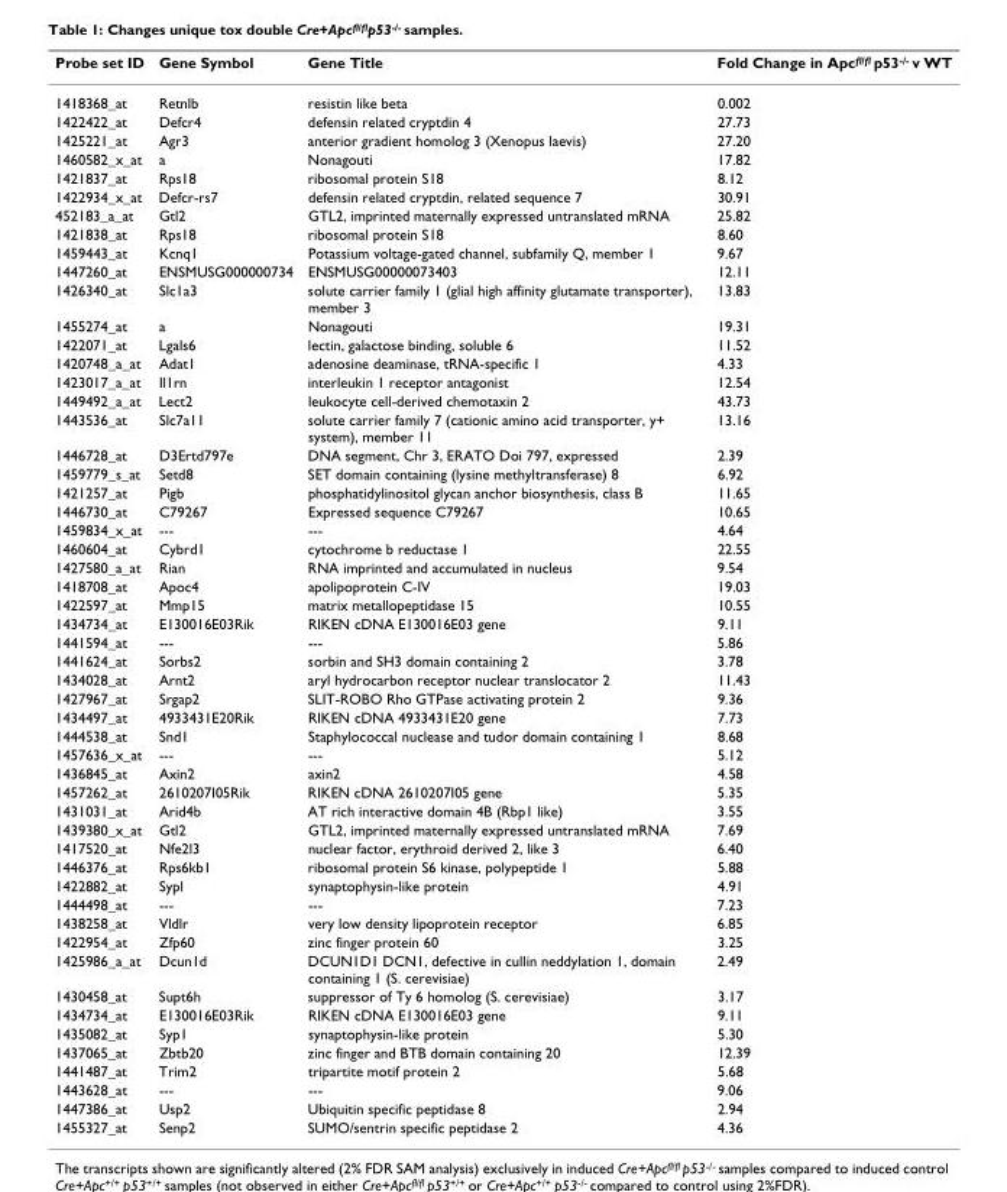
<table><thead><tr><td>Probe set ID</td><td>Gene Symbol</td><td>Gene Title</td><td>Fold Change in Apc<sup>fl/fl</sup> p53<sup>-/-</sup> v WT</td></tr></thead><tbody><tr><td>1418368_at</td><td>Retnlb</td><td>resistin like beta</td><td>0.002</td></tr><tr><td>1422422_at</td><td>Defcr4</td><td>defensin related cryptdin 4</td><td>27.73</td></tr><tr><td>1425221_at</td><td>Agr3</td><td>anterior gradient homolog 3 (Xenopus laevis)</td><td>27.20</td></tr><tr><td>1460582_x_at</td><td>a</td><td>Nonagouti</td><td>17.82</td></tr><tr><td>1421837_at</td><td>Rps18</td><td>ribosomal protein S18</td><td>8.12</td></tr><tr><td>1422934_x_at</td><td>Defcr-rs7</td><td>defensin related cryptdin, related sequence 7</td><td>30.91</td></tr><tr><td>452183_a_at</td><td>Gtl2</td><td>GTL2, imprinted maternally expressed untranslated mRNA</td><td>25.82</td></tr><tr><td>1421838_at</td><td>Rps18</td><td>ribosomal protein S18</td><td>8.60</td></tr><tr><td>1459443_at</td><td>Kcnq1</td><td>Potassium voltage-gated channel, subfamily Q, member 1</td><td>9.67</td></tr><tr><td>1447260_at</td><td>ENSMUSG000000734</td><td>ENSMUSG00000073403</td><td>12.11</td></tr><tr><td>1426340_at</td><td>Slc1a3</td><td>solute carrier family 1 (glial high affinity glutamate transporter), member 3</td><td>13.83</td></tr><tr><td>1455274_at</td><td>a</td><td>Nonagouti</td><td>19.31</td></tr><tr><td>1422071_at</td><td>Lgals6</td><td>lectin, galactose binding, soluble 6</td><td>11.52</td></tr><tr><td>1420748_a_at</td><td>Adat1</td><td>adenosine deaminase, tRNA-specific 1</td><td>4.33</td></tr><tr><td>1423017_a_at</td><td>Il1rn</td><td>interleukin 1 receptor antagonist</td><td>12.54</td></tr><tr><td>1449492_a_at</td><td>Lect2</td><td>leukocyte cell-derived chemotaxin 2</td><td>43.73</td></tr><tr><td>1443536_at</td><td>Slc7a11</td><td>solute carrier family 7 (cationic amino acid transporter, y+ system), member 11</td><td>13.16</td></tr><tr><td>1446728_at</td><td>D3Ertd797e</td><td>DNA segment, Chr 3, ERATO Doi 797, expressed</td><td>2.39</td></tr><tr><td>1459779_s_at</td><td>Setd8</td><td>SET domain containing (lysine methyltransferase) 8</td><td>6.92</td></tr><tr><td>1421257_at</td><td>Pigb</td><td>phosphatidylinositol glycan anchor biosynthesis, class B</td><td>11.65</td></tr><tr><td>1446730_at</td><td>C79267</td><td>Expressed sequence C79267</td><td>10.65</td></tr><tr><td>1459834_x_at</td><td>---</td><td>---</td><td>4.64</td></tr><tr><td>1460604_at</td><td>Cybrd1</td><td>cytochrome b reductase 1</td><td>22.55</td></tr><tr><td>1427580_a_at</td><td>Rian</td><td>RNA imprinted and accumulated in nucleus</td><td>9.54</td></tr><tr><td>1418708_at</td><td>Apoc4</td><td>apolipoprotein C-IV</td><td>19.03</td></tr><tr><td>1422597_at</td><td>Mmp15</td><td>matrix metallopeptidase 15</td><td>10.55</td></tr><tr><td>1434734_at</td><td>E130016E03Rik</td><td>RIKEN cDNA E130016E03 gene</td><td>9.11</td></tr><tr><td>1441594_at</td><td>---</td><td>---</td><td>5.86</td></tr><tr><td>1441624_at</td><td>Sorbs2</td><td>sorbin and SH3 domain containing 2</td><td>3.78</td></tr><tr><td>1434028_at</td><td>Arnt2</td><td>aryl hydrocarbon receptor nuclear translocator 2</td><td>11.43</td></tr><tr><td>1427967_at</td><td>Srgap2</td><td>SLIT-ROBO Rho GTPase activating protein 2</td><td>9.36</td></tr><tr><td>1434497_at</td><td>4933431E20Rik</td><td>RIKEN cDNA 4933431E20 gene</td><td>7.73</td></tr><tr><td>1444538_at</td><td>Snd1</td><td>Staphylococcal nuclease and tudor domain containing 1</td><td>8.68</td></tr><tr><td>1457636_x_at</td><td>---</td><td>---</td><td>5.12</td></tr><tr><td>1436845_at</td><td>Axin2</td><td>axin2</td><td>4.58</td></tr><tr><td>1457262_at</td><td>2610207I05Rik</td><td>RIKEN cDNA 2610207I05 gene</td><td>5.35</td></tr><tr><td>1431031_at</td><td>Arid4b</td><td>AT rich interactive domain 4B (Rbp1 like)</td><td>3.55</td></tr><tr><td>1439380_x_at</td><td>Gtl2</td><td>GTL2, imprinted maternally expressed untranslated mRNA</td><td>7.69</td></tr><tr><td>1417520_at</td><td>Nfe2l3</td><td>nuclear factor, erythroid derived 2, like 3</td><td>6.40</td></tr><tr><td>1446376_at</td><td>Rps6kb1</td><td>ribosomal protein S6 kinase, polypeptide 1</td><td>5.88</td></tr><tr><td>1422882_at</td><td>Sypl</td><td>synaptophysin-like protein</td><td>4.91</td></tr><tr><td>1444498_at</td><td>---</td><td>---</td><td>7.23</td></tr><tr><td>1438258_at</td><td>Vldlr</td><td>very low density lipoprotein receptor</td><td>6.85</td></tr><tr><td>1422954_at</td><td>Zfp60</td><td>zinc finger protein 60</td><td>3.25</td></tr><tr><td>1425986_a_at</td><td>Dcun1d</td><td>DCUN1D1 DCN1, defective in cullin neddylation 1, domain containing 1 (S. cerevisiae)</td><td>2.49</td></tr><tr><td>1430458_at</td><td>Supt6h</td><td>suppressor of Ty 6 homolog (S. cerevisiae)</td><td>3.17</td></tr><tr><td>1434734_at</td><td>E130016E03Rik</td><td>RIKEN cDNA E130016E03 gene</td><td>9.11</td></tr><tr><td>1435082_at</td><td>Syp1</td><td>synaptophysin-like protein</td><td>5.30</td></tr><tr><td>1437065_at</td><td>Zbtb20</td><td>zinc finger and BTB domain containing 20</td><td>12.39</td></tr><tr><td>1441487_at</td><td>Trim2</td><td>tripartite motif protein 2</td><td>5.68</td></tr><tr><td>1443628_at</td><td>---</td><td>---</td><td>9.06</td></tr><tr><td>1447386_at</td><td>Usp2</td><td>Ubiquitin specific peptidase 8</td><td>2.94</td></tr><tr><td>1455327_at</td><td>Senp2</td><td>SUMO/sentrin specific peptidase 2</td><td>4.36</td></tr></tbody></table>